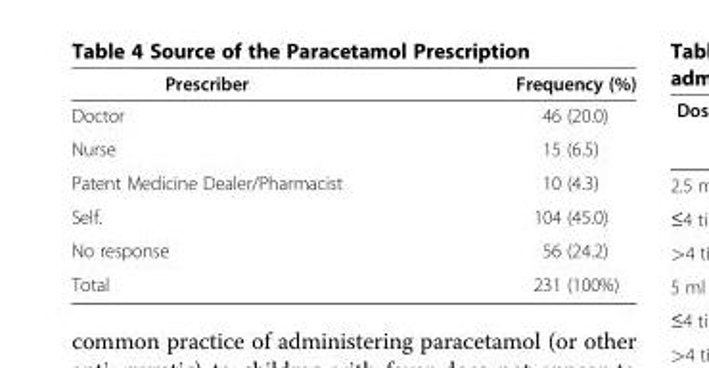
<table><thead><tr><td>Prescriber</td><td>Frequency (%)</td></tr></thead><tbody><tr><td>Doctor</td><td>46 (20.0)</td></tr><tr><td>Nurse</td><td>15 (6.5)</td></tr><tr><td>Patent Medicine Dealer/Pharmacist</td><td>10 (4.3)</td></tr><tr><td>Self.</td><td>104 (45.0)</td></tr><tr><td>No response</td><td>56 (24.2)</td></tr><tr><td>Total</td><td>231 (100%)</td></tr></tbody></table>